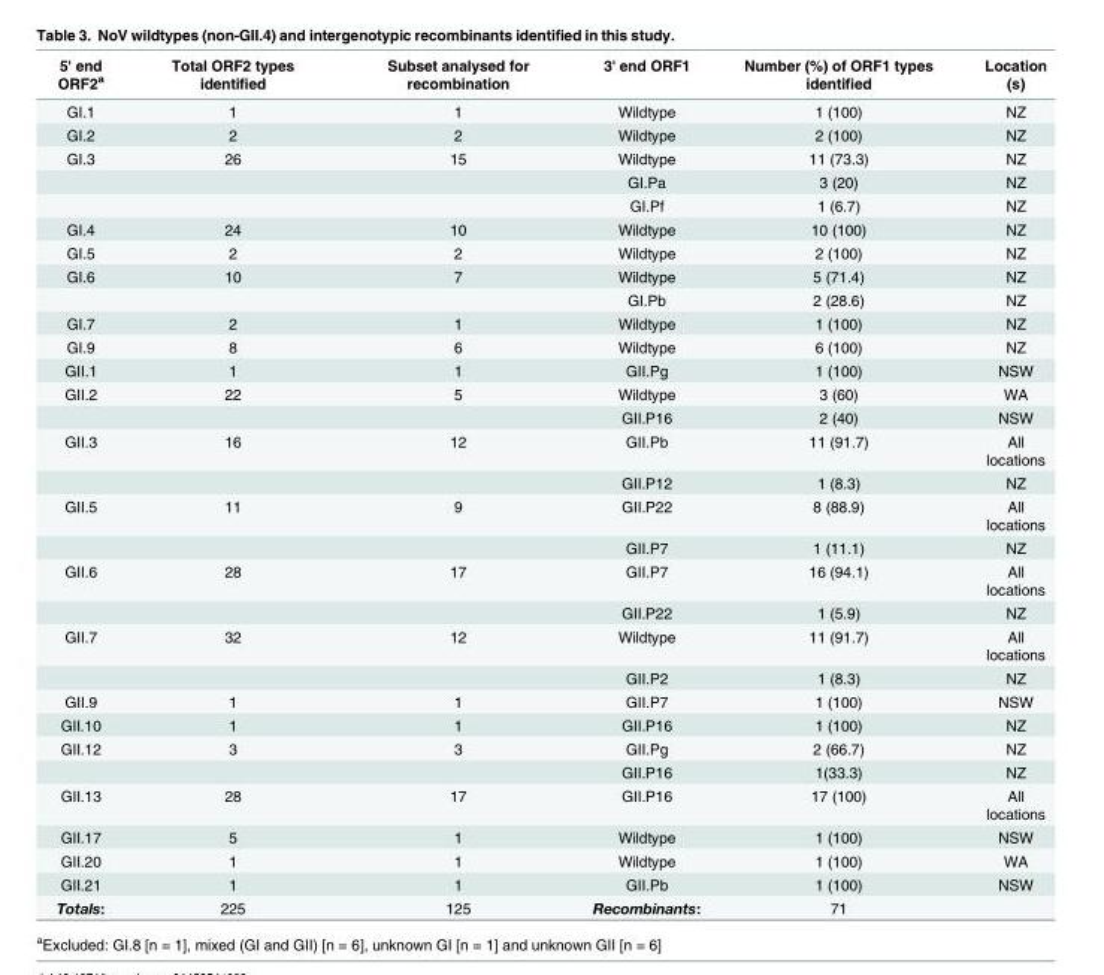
<table><thead><tr><td>5&#x27; end ORF2<sup>a</sup></td><td>Total ORF2 types identified</td><td>Subset analysed for recombination</td><td>3&#x27; end ORF1</td><td>Number (%) of ORF1 types identified</td><td>Location (s)</td></tr></thead><tbody><tr><td>GI.1</td><td>1</td><td>1</td><td>Wildtype</td><td>1 (100)</td><td>NZ</td></tr><tr><td>GI.2</td><td>2</td><td>2</td><td>Wildtype</td><td>2 (100)</td><td>NZ</td></tr><tr><td rowspan="3">GI.3</td><td>26</td><td>15</td><td>Wildtype</td><td>11 (73.3)</td><td>NZ</td></tr><tr><td></td><td></td><td>GI.Pa</td><td>3 (20)</td><td>NZ</td></tr><tr><td></td><td></td><td>GI.Pf</td><td>1 (6.7)</td><td>NZ</td></tr><tr><td>GI.4</td><td>24</td><td>10</td><td>Wildtype</td><td>10 (100)</td><td>NZ</td></tr><tr><td>GI.5</td><td>2</td><td>2</td><td>Wildtype</td><td>2 (100)</td><td>NZ</td></tr><tr><td rowspan="2">GI.6</td><td>10</td><td>7</td><td>Wildtype</td><td>5 (71.4)</td><td>NZ</td></tr><tr><td></td><td></td><td>GI.Pb</td><td>2 (28.6)</td><td>NZ</td></tr><tr><td>GI.7</td><td>2</td><td>1</td><td>Wildtype</td><td>1 (100)</td><td>NZ</td></tr><tr><td>GI.9</td><td>8</td><td>6</td><td>Wildtype</td><td>6 (100)</td><td>NZ</td></tr><tr><td>GII.1</td><td>1</td><td>1</td><td>GII.Pg</td><td>1 (100)</td><td>NSW</td></tr><tr><td rowspan="2">GII.2</td><td>22</td><td>5</td><td>Wildtype</td><td>3 (60)</td><td>WA</td></tr><tr><td></td><td></td><td>GII.P16</td><td>2 (40)</td><td>NSW</td></tr><tr><td rowspan="2">GII.3</td><td>16</td><td>12</td><td>GII.Pb</td><td>11 (91.7)</td><td>All locations</td></tr><tr><td></td><td></td><td>GII.P12</td><td>1 (8.3)</td><td>NZ</td></tr><tr><td rowspan="2">GII.5</td><td>11</td><td>9</td><td>GII.P22</td><td>8 (88.9)</td><td>All locations</td></tr><tr><td></td><td></td><td>GII.P7</td><td>1 (11.1)</td><td>NZ</td></tr><tr><td rowspan="2">GII.6</td><td>28</td><td>17</td><td>GII.P7</td><td>16 (94.1)</td><td>All locations</td></tr><tr><td></td><td></td><td>GII.P22</td><td>1 (5.9)</td><td>NZ</td></tr><tr><td rowspan="2">GII.7</td><td>32</td><td>12</td><td>Wildtype</td><td>11 (91.7)</td><td>All locations</td></tr><tr><td></td><td></td><td>GII.P2</td><td>1 (8.3)</td><td>NZ</td></tr><tr><td>GII.9</td><td>1</td><td>1</td><td>GII.P7</td><td>1 (100)</td><td>NSW</td></tr><tr><td>GII.10</td><td>1</td><td>1</td><td>GII.P16</td><td>1 (100)</td><td>NZ</td></tr><tr><td rowspan="2">GII.12</td><td>3</td><td>3</td><td>GII.Pg</td><td>2 (66.7)</td><td>NZ</td></tr><tr><td></td><td></td><td>GII.P16</td><td>1(33.3)</td><td>NZ</td></tr><tr><td>GII.13</td><td>28</td><td>17</td><td>GII.P16</td><td>17 (100)</td><td>All locations</td></tr><tr><td>GII.17</td><td>5</td><td>1</td><td>Wildtype</td><td>1 (100)</td><td>NSW</td></tr><tr><td>GII.20</td><td>1</td><td>1</td><td>Wildtype</td><td>1 (100)</td><td>WA</td></tr><tr><td>GII.21</td><td>1</td><td>1</td><td>GII.Pb</td><td>1 (100)</td><td>NSW</td></tr><tr><td>Totals:</td><td>225</td><td>125</td><td>Recombinants:</td><td>71</td><td></td></tr></tbody></table>